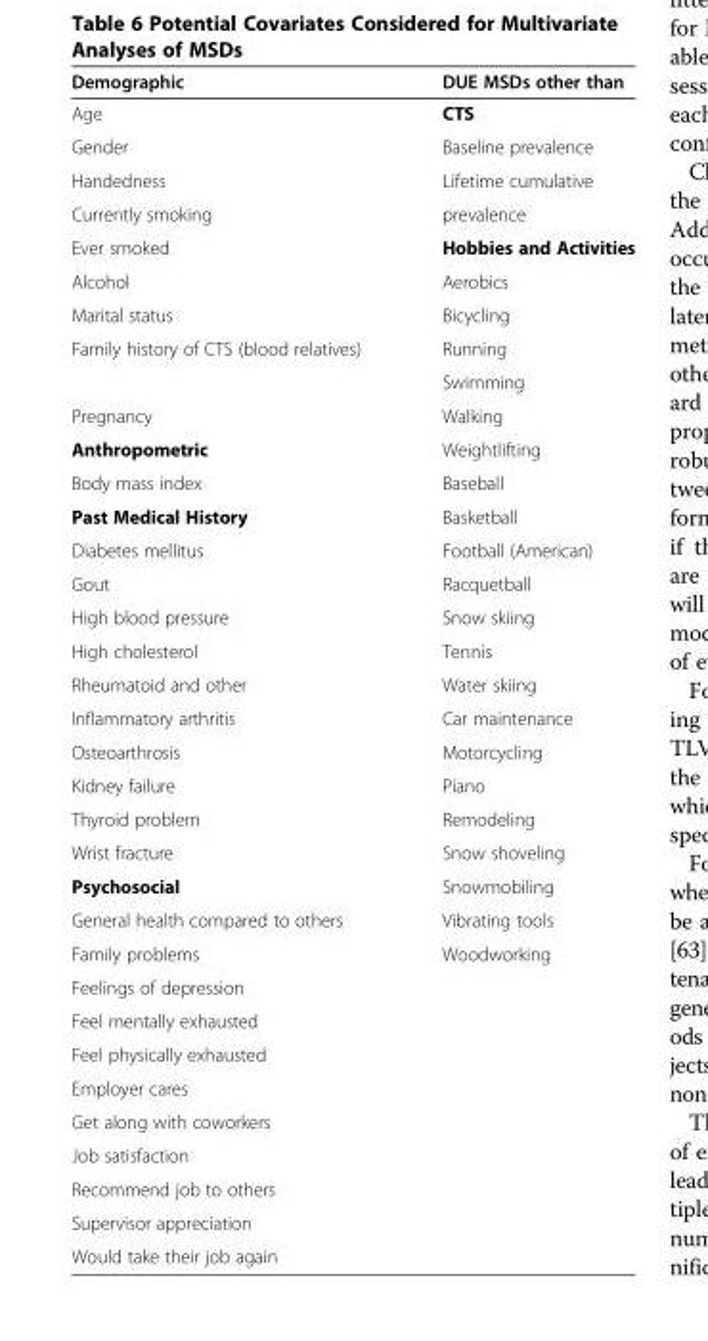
<table><thead><tr><td>Demographic</td><td>DUE MSDs other than</td></tr></thead><tbody><tr><td>Age</td><td>CTS</td></tr><tr><td>Gender</td><td>Baseline prevalence</td></tr><tr><td>Handedness</td><td>Lifetime cumulative</td></tr><tr><td>Currently smoking</td><td>prevalence</td></tr><tr><td>Ever smoked</td><td>Hobbies and Activities</td></tr><tr><td>Alcohol</td><td>Aerobics</td></tr><tr><td>Marital status</td><td>Bicycling</td></tr><tr><td rowspan="2">Family history of CTS (blood relatives)</td><td>Running</td></tr><tr><td>Swimming</td></tr><tr><td>Pregnancy</td><td>Walking</td></tr><tr><td>Anthropometric</td><td>Weightlifting</td></tr><tr><td>Body mass index</td><td>Baseball</td></tr><tr><td>Past Medical History</td><td>Basketball</td></tr><tr><td>Diabetes mellitus</td><td>Football (American)</td></tr><tr><td>Gout</td><td>Racquetball</td></tr><tr><td>High blood pressure</td><td>Snow skiing</td></tr><tr><td>High cholesterol</td><td>Tennis</td></tr><tr><td>Rheumatoid and other</td><td>Water skiing</td></tr><tr><td>Inflammatory arthritis</td><td>Car maintenance</td></tr><tr><td>Osteoarthrosis</td><td>Motorcycling</td></tr><tr><td>Kidney failure</td><td>Piano</td></tr><tr><td>Thyroid problem</td><td>Remodeling</td></tr><tr><td>Wrist fracture</td><td>Snow shoveling</td></tr><tr><td>Psychosocial</td><td>Snowmobiling</td></tr><tr><td>General health compared to others</td><td>Vibrating tools</td></tr><tr><td>Family problems</td><td>Woodworking</td></tr><tr><td colspan="2">Feelings of depression</td></tr><tr><td colspan="2">Feel mentally exhausted</td></tr><tr><td colspan="2">Feel physically exhausted</td></tr><tr><td colspan="2">Employer cares</td></tr><tr><td colspan="2">Get along with coworkers</td></tr><tr><td colspan="2">Job satisfaction</td></tr><tr><td colspan="2">Recommend job to others</td></tr><tr><td colspan="2">Supervisor appreciation</td></tr><tr><td>Would take their job again</td><td></td></tr></tbody></table>